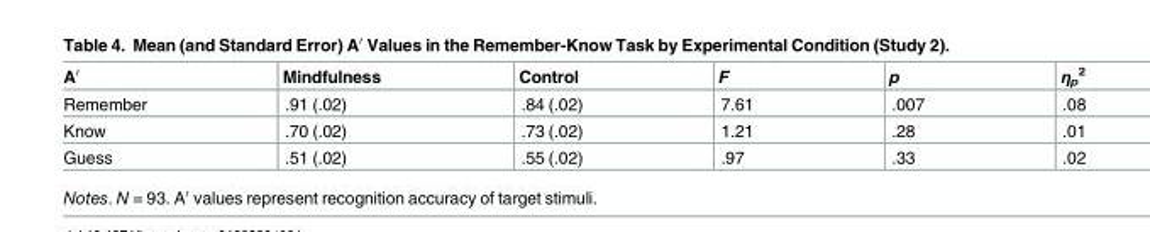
<table><thead><tr><td>A0</td><td>Mindfulness</td><td>Control</td><td>F</td><td>p</td><td>η<sub>p</sub> <sup>2</sup></td></tr></thead><tbody><tr><td>Remember</td><td>.91 (.02)</td><td>.84 (.02)</td><td>7.61</td><td>.007</td><td>.08</td></tr><tr><td>Know</td><td>.70 (.02)</td><td>.73 (.02)</td><td>1.21</td><td>.28</td><td>.01</td></tr><tr><td>Guess</td><td>.51 (.02)</td><td>.55 (.02)</td><td>.97</td><td>.33</td><td>.02</td></tr></tbody></table>